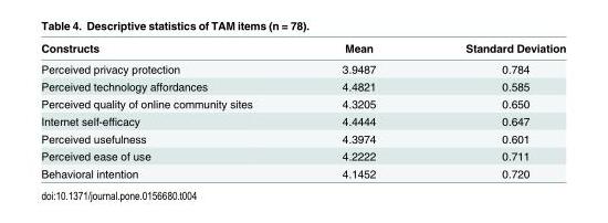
<table><thead><tr><td>Constructs</td><td>Mean</td><td>Standard Deviation</td></tr></thead><tbody><tr><td>Perceived privacy protection</td><td>3.9487</td><td>0.784</td></tr><tr><td>Perceived technology affordances</td><td>4.4821</td><td>0.585</td></tr><tr><td>Perceived quality of online community sites</td><td>4.3205</td><td>0.650</td></tr><tr><td>Internet self-efficacy</td><td>4.4444</td><td>0.647</td></tr><tr><td>Perceived usefulness</td><td>4.3974</td><td>0.601</td></tr><tr><td>Perceived ease of use</td><td>4.2222</td><td>0.711</td></tr><tr><td>Behavioral intention</td><td>4.1452</td><td>0.720</td></tr></tbody></table>